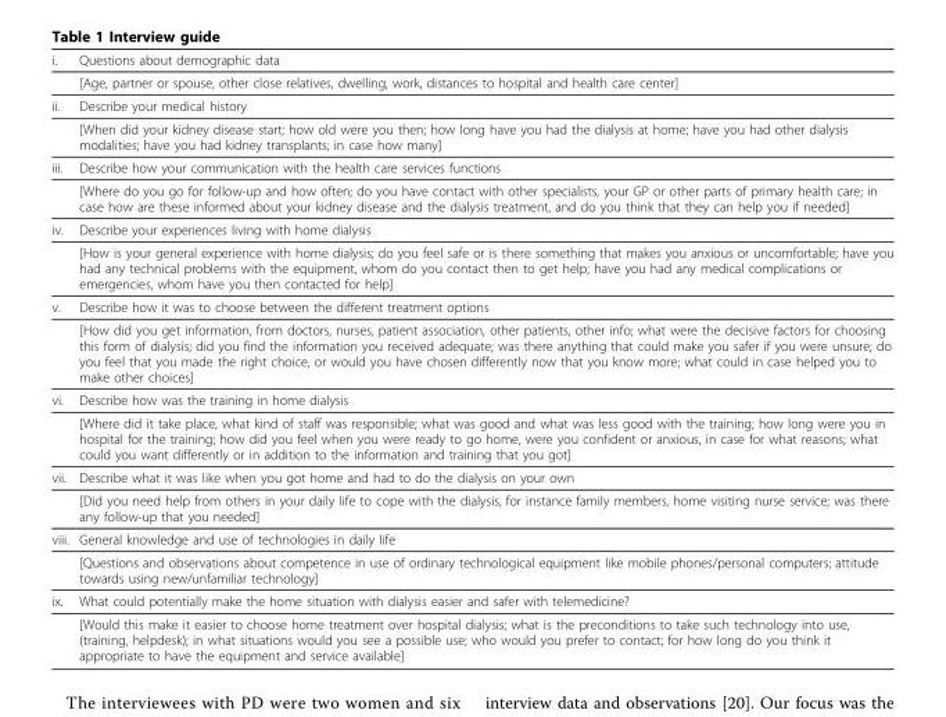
<table><thead><tr><td>i.</td><td>Questions about demographic data</td></tr></thead><tbody><tr><td></td><td>[Age, partner or spouse, other close relatives, dwelling, work, distances to hospital and health care center]</td></tr><tr><td rowspan="2">ii.</td><td>Describe your medical history</td></tr><tr><td>[When did your kidney disease start; how old were you then; how long have you had the dialysis at home; have you had other dialysis modalities; have you had kidney transplants; in case how many]</td></tr><tr><td rowspan="2">iii.</td><td>Describe how your communication with the health care services functions</td></tr><tr><td>[Where do you go for follow-up and how often; do you have contact with other specialists, your GP or other parts of primary health care; in case how are these informed about your kidney disease and the dialysis treatment, and do you think that they can help you if needed]</td></tr><tr><td rowspan="2">iv.</td><td>Describe your experiences living with home dialysis</td></tr><tr><td>[How is your general experience with home dialysis; do you feel safe or is there something that makes you anxious or uncomfortable; have you had any technical problems with the equipment, whom do you contact then to get help; have you had any medical complications or emergencies, whom have you then contacted for help]</td></tr><tr><td rowspan="2">v.</td><td>Describe how it was to choose between the different treatment options</td></tr><tr><td>[How did you get information, from doctors, nurses, patient association, other patients, other info; what were the decisive factors for choosing this form of dialysis; did you find the information you received adequate; was there anything that could make you safer if you were unsure; do you feel that you made the right choice, or would you have chosen differently now that you know more; what could in case helped you to make other choices]</td></tr><tr><td rowspan="2">vi.</td><td>Describe how was the training in home dialysis</td></tr><tr><td>[Where did it take place, what kind of staff was responsible; what was good and what was less good with the training; how long were you in hospital for the training; how did you feel when you were ready to go home, were you confident or anxious, in case for what reasons; what could you want differently or in addition to the information and training that you got]</td></tr><tr><td rowspan="2">vii.</td><td>Describe what it was like when you got home and had to do the dialysis on your own</td></tr><tr><td>[Did you need help from others in your daily life to cope with the dialysis, for instance family members, home visiting nurse service; was there any follow-up that you needed]</td></tr><tr><td rowspan="2">viii.</td><td>General knowledge and use of technologies in daily life</td></tr><tr><td>[Questions and observations about competence in use of ordinary technological equipment like mobile phones/personal computers; attitude towards using new/unfamiliar technology]</td></tr><tr><td rowspan="2">ix.</td><td>What could potentially make the home situation with dialysis easier and safer with telemedicine?</td></tr><tr><td>[Would this make it easier to choose home treatment over hospital dialysis; what is the preconditions to take such technology into use, (training, helpdesk); in what situations would you see a possible use; who would you prefer to contact; for how long do you think it appropriate to have the equipment and service available]</td></tr></tbody></table>